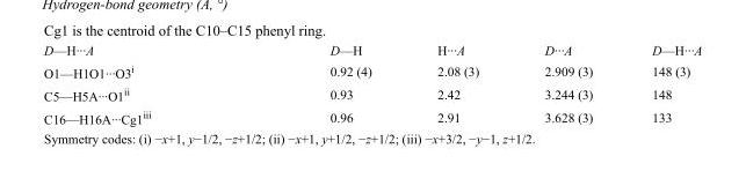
<table><tbody><tr><td>D—H···A</td><td>D—H</td><td>H···A</td><td>D···A</td><td>D—H···A</td></tr><tr><td>O1—H1O1···O3<sup>i</sup></td><td>0.92 (4)</td><td>2.08 (3)</td><td>2.909 (3)</td><td>148 (3)</td></tr><tr><td>C5—H5A···O1<sup>ii</sup></td><td>0.93</td><td>2.42</td><td>3.244 (3)</td><td>148</td></tr><tr><td>C16—H16A···Cg1<sup>iii</sup></td><td>0.96</td><td>2.91</td><td>3.628 (3)</td><td>133</td></tr></tbody></table>